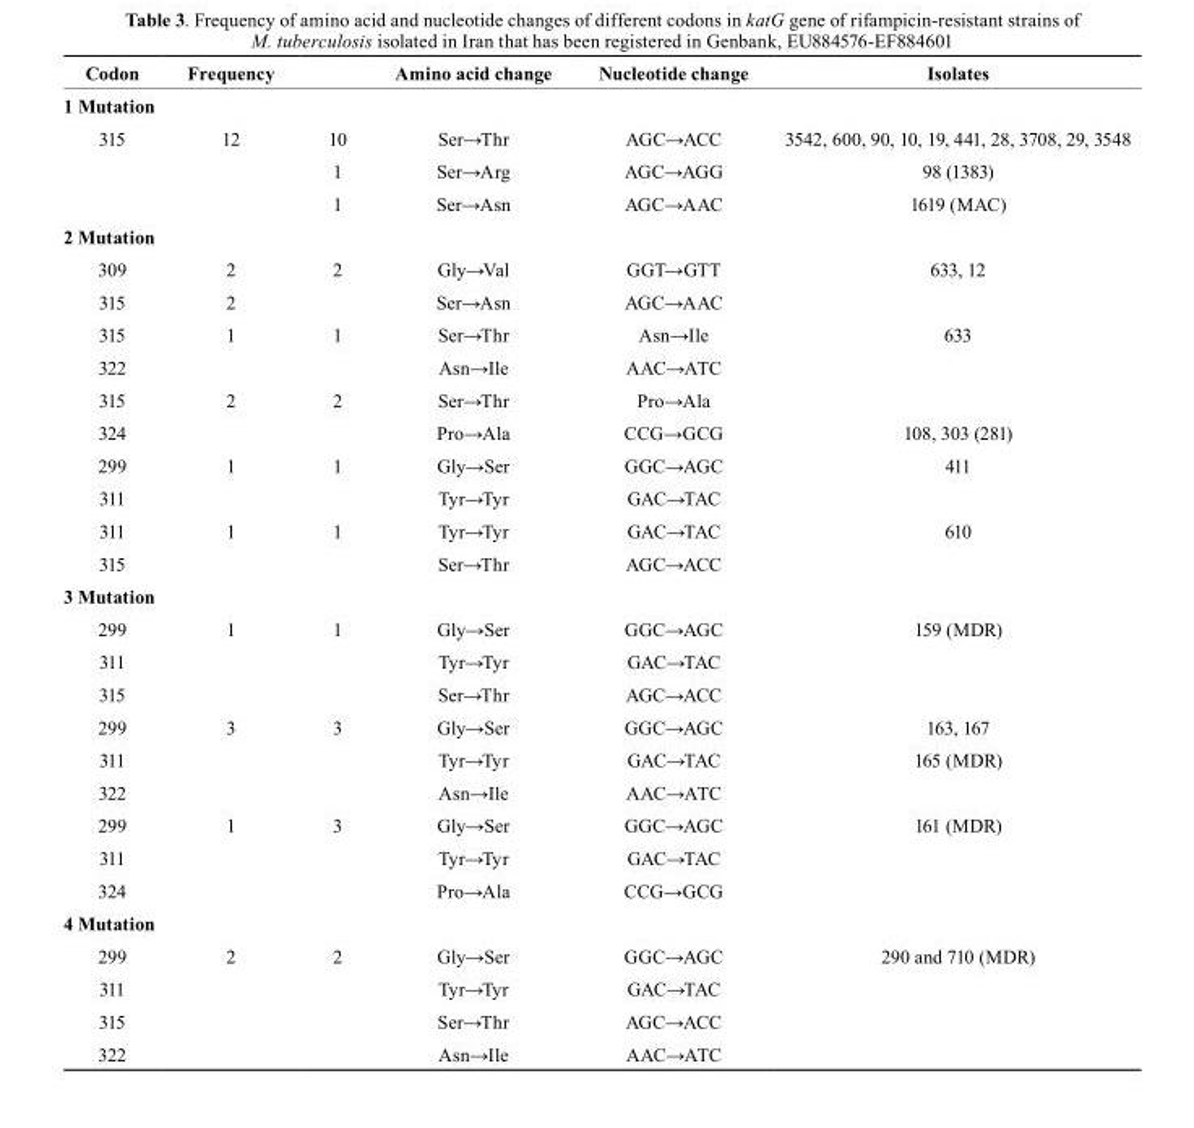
<table><thead><tr><td>Codon</td><td>Frequency</td><td></td><td>Amino acid change</td><td>Nucleotide change</td><td>Isolates</td></tr></thead><tbody><tr><td colspan="6">1 Mutation</td></tr><tr><td rowspan="3">315</td><td>12</td><td>10</td><td>Ser→Thr</td><td>AGC→ACC</td><td>3542, 600, 90, 10, 19, 441, 28, 3708, 29, 3548</td></tr><tr><td></td><td>1</td><td>Ser→Arg</td><td>AGC→AGG</td><td>98 (1383)</td></tr><tr><td></td><td>1</td><td>Ser→Asn</td><td>AGC→AAC</td><td>1619 (MAC)</td></tr><tr><td colspan="6">2 Mutation</td></tr><tr><td>309</td><td>2</td><td>2</td><td>Gly→Val</td><td>GGT→GTT</td><td>633, 12</td></tr><tr><td>315</td><td>2</td><td></td><td>Ser→Asn</td><td>AGC→AAC</td><td></td></tr><tr><td>315</td><td>1</td><td>1</td><td>Ser→Thr</td><td>Asn→Ile</td><td>633</td></tr><tr><td>322</td><td></td><td></td><td>Asn→Ile</td><td>AAC→ATC</td><td></td></tr><tr><td>315</td><td>2</td><td>2</td><td>Ser→Thr</td><td>Pro→Ala</td><td></td></tr><tr><td>324</td><td></td><td></td><td>Pro→Ala</td><td>CCG→GCG</td><td>108, 303 (281)</td></tr><tr><td>299</td><td>1</td><td>1</td><td>Gly→Ser</td><td>GGC→AGC</td><td>411</td></tr><tr><td>311</td><td></td><td></td><td>Tyr→Tyr</td><td>GAC→TAC</td><td></td></tr><tr><td>311</td><td>1</td><td>1</td><td>Tyr→Tyr</td><td>GAC→TAC</td><td>610</td></tr><tr><td>315</td><td></td><td></td><td>Ser→Thr</td><td>AGC→ACC</td><td></td></tr><tr><td colspan="6">3 Mutation</td></tr><tr><td>299</td><td>1</td><td>1</td><td>Gly→Ser</td><td>GGC→AGC</td><td>159 (MDR)</td></tr><tr><td>311</td><td></td><td></td><td>Tyr→Tyr</td><td>GAC→TAC</td><td></td></tr><tr><td>315</td><td></td><td></td><td>Ser→Thr</td><td>AGC→ACC</td><td></td></tr><tr><td>299</td><td>3</td><td>3</td><td>Gly→Ser</td><td>GGC→AGC</td><td>163, 167</td></tr><tr><td>311</td><td></td><td></td><td>Tyr→Tyr</td><td>GAC→TAC</td><td>165 (MDR)</td></tr><tr><td>322</td><td></td><td></td><td>Asn→Ile</td><td>AAC→ATC</td><td></td></tr><tr><td>299</td><td>1</td><td>3</td><td>Gly→Ser</td><td>GGC→AGC</td><td>161 (MDR)</td></tr><tr><td>311</td><td></td><td></td><td>Tyr→Tyr</td><td>GAC→TAC</td><td></td></tr><tr><td>324</td><td></td><td></td><td>Pro→Ala</td><td>CCG→GCG</td><td></td></tr><tr><td colspan="6">4 Mutation</td></tr><tr><td>299</td><td>2</td><td>2</td><td>Gly→Ser</td><td>GGC→AGC</td><td>290 and 710 (MDR)</td></tr><tr><td>311</td><td></td><td></td><td>Tyr→Tyr</td><td>GAC→TAC</td><td></td></tr><tr><td>315</td><td></td><td></td><td>Ser→Thr</td><td>AGC→ACC</td><td></td></tr><tr><td>322</td><td></td><td></td><td>Asn→Ile</td><td>AAC→ATC</td><td></td></tr></tbody></table>